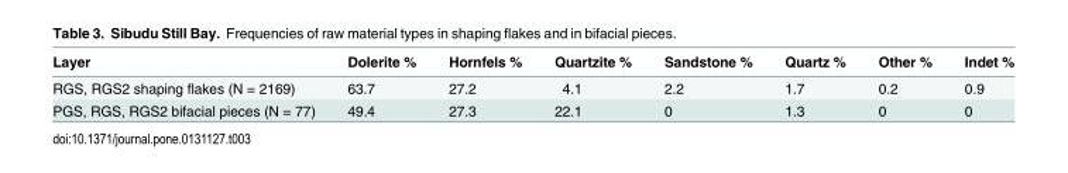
<table><thead><tr><td>Layer</td><td>Dolerite %</td><td>Hornfels %</td><td>Quartzite %</td><td>Sandstone %</td><td>Quartz %</td><td>Other %</td><td>Indet %</td></tr></thead><tbody><tr><td>RGS, RGS2 shaping flakes (N = 2169)</td><td>63.7</td><td>27.2</td><td>4.1</td><td>2.2</td><td>1.7</td><td>0.2</td><td>0.9</td></tr><tr><td>PGS, RGS, RGS2 bifacial pieces (N = 77)</td><td>49.4</td><td>27.3</td><td>22.1</td><td>0</td><td>1.3</td><td>0</td><td>0</td></tr></tbody></table>